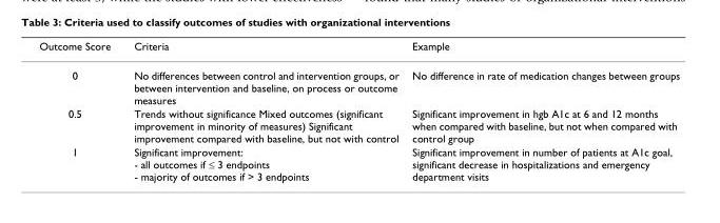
<table><thead><tr><td>Outcome Score</td><td>Criteria</td><td>Example</td></tr></thead><tbody><tr><td>0</td><td>No differences between control and intervention groups, or between intervention and baseline, on process or outcome measures</td><td>No difference in rate of medication changes between groups</td></tr><tr><td>0.5</td><td>Trends without significance Mixed outcomes (significant improvement in minority of measures) Significant improvement compared with baseline, but not with control</td><td>Significant improvement in hgb A1c at 6 and 12 months when compared with baseline, but not when compared with control group</td></tr><tr><td>1</td><td>Significant improvement: - all outcomes if ≤ 3 endpoints - majority of outcomes if &gt; 3 endpoints</td><td>Significant improvement in number of patients at A1c goal, significant decrease in hospitalizations and emergency department visits</td></tr></tbody></table>